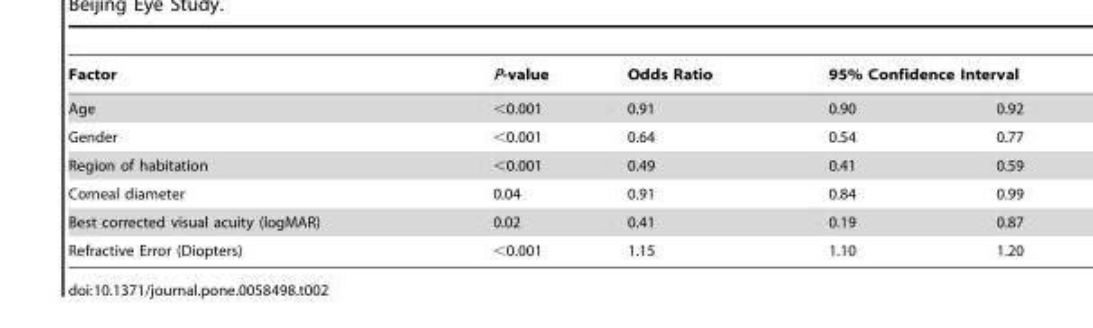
<table><thead><tr><td rowspan="2">Factor Age</td><td rowspan="2">P-value &lt;0.001</td><td rowspan="2">Odds Ratio 0.91</td><td colspan="2">95% Confidence Interval</td></tr><tr><td>0.90</td><td>0.92</td></tr></thead><tbody><tr><td>Gender</td><td>&lt;0.001</td><td>0.64</td><td>0.54</td><td>0.77</td></tr><tr><td>Region of habitation</td><td>&lt;0.001</td><td>0.49</td><td>0.41</td><td>0.59</td></tr><tr><td>Corneal diameter</td><td>0.04</td><td>0.91</td><td>0.84</td><td>0.99</td></tr><tr><td>Best corrected visual acuity (logMAR)</td><td>0.02</td><td>0.41</td><td>0.19</td><td>0.87</td></tr><tr><td>Refractive Error (Diopters)</td><td>&lt;0.001</td><td>1.15</td><td>1.10</td><td>1.20</td></tr></tbody></table>